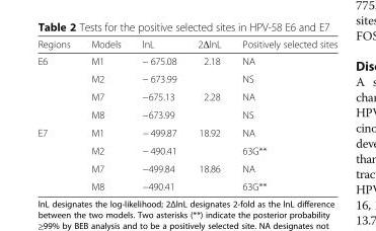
<table><thead><tr><td>Regions</td><td>Models</td><td>lnL</td><td>2ΔlnL</td><td>Positively selected sites</td></tr></thead><tbody><tr><td rowspan="4">E6</td><td>M1</td><td>− 675.08</td><td rowspan="2">2.18</td><td>NA</td></tr><tr><td>M2</td><td>− 673.99</td><td>NS</td></tr><tr><td>M7</td><td>−675.13</td><td rowspan="2">2.28</td><td>NA</td></tr><tr><td>M8</td><td>−673.99</td><td>NS</td></tr><tr><td rowspan="4">E7</td><td>M1</td><td>− 499.87</td><td rowspan="2">18.92</td><td>NA</td></tr><tr><td>M2</td><td>− 490.41</td><td>63G**</td></tr><tr><td>M7</td><td>−499.84</td><td rowspan="2">18.86</td><td>NA</td></tr><tr><td>M8</td><td>−490.41</td><td>63G**</td></tr></tbody></table>